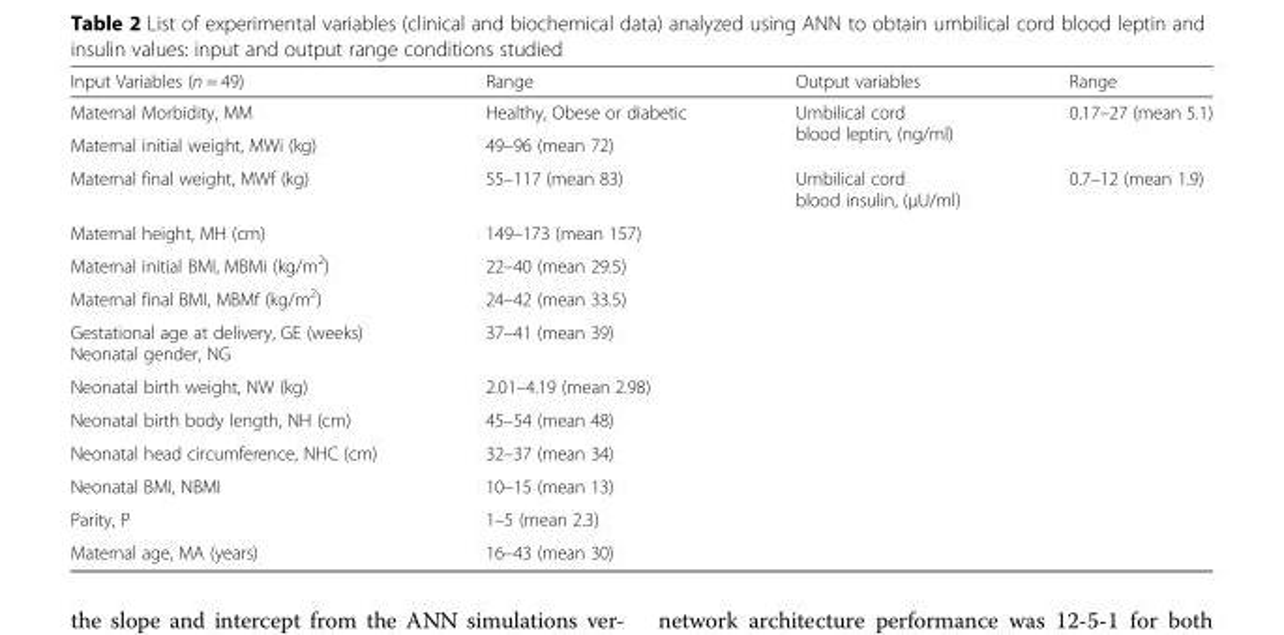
<table><thead><tr><td>Input Variables (n = 49)</td><td>Range</td><td>Output variables</td><td>Range</td></tr></thead><tbody><tr><td>Maternal Morbidity, MM</td><td>Healthy, Obese or diabetic</td><td rowspan="2">Umbilical cord blood leptin, (ng/ml)</td><td rowspan="2">0.17–27 (mean 5.1)</td></tr><tr><td>Maternal initial weight, MWi (kg)</td><td>49–96 (mean 72)</td></tr><tr><td>Maternal final weight, MWf (kg)</td><td>55–117 (mean 83)</td><td>Umbilical cord blood insulin, (μU/ml)</td><td>0.7–12 (mean 1.9)</td></tr><tr><td>Maternal height, MH (cm)</td><td>149–173 (mean 157)</td><td></td><td></td></tr><tr><td>Maternal initial BMI, MBMi (kg/m<sup>2</sup>)</td><td>22–40 (mean 29.5)</td><td></td><td></td></tr><tr><td>Maternal final BMI, MBMf (kg/m<sup>2</sup>)</td><td>24–42 (mean 33.5)</td><td></td><td></td></tr><tr><td>Gestational age at delivery, GE (weeks) Neonatal gender, NG</td><td>37–41 (mean 39)</td><td></td><td></td></tr><tr><td>Neonatal birth weight, NW (kg)</td><td>2.01–4.19 (mean 2.98)</td><td></td><td></td></tr><tr><td>Neonatal birth body length, NH (cm)</td><td>45–54 (mean 48)</td><td></td><td></td></tr><tr><td>Neonatal head circumference, NHC (cm)</td><td>32–37 (mean 34)</td><td></td><td></td></tr><tr><td>Neonatal BMI, NBMI</td><td>10–15 (mean 13)</td><td></td><td></td></tr><tr><td>Parity, P</td><td>1–5 (mean 2.3)</td><td></td><td></td></tr><tr><td>Maternal age, MA (years)</td><td>16–43 (mean 30)</td><td></td><td></td></tr></tbody></table>